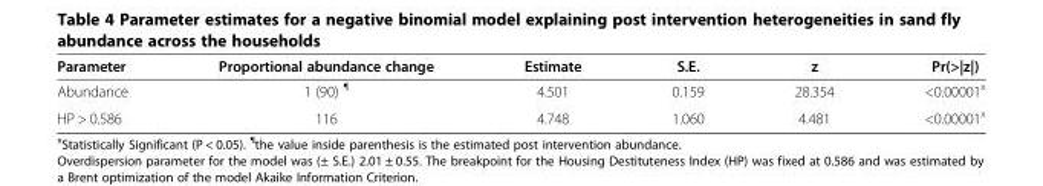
<table><thead><tr><td>Parameter</td><td>Proportional abundance change</td><td>Estimate</td><td>S.E.</td><td>z</td><td>Pr(&gt;|z|)</td></tr></thead><tbody><tr><td>Abundance</td><td>1 (90) <sup>¶</sup></td><td>4.501</td><td>0.159</td><td>28.354</td><td>&lt;0.00001<sup>x</sup></td></tr><tr><td>HP &gt; 0.586</td><td>116</td><td>4.748</td><td>1.060</td><td>4.481</td><td>&lt;0.00001<sup>x</sup></td></tr></tbody></table>